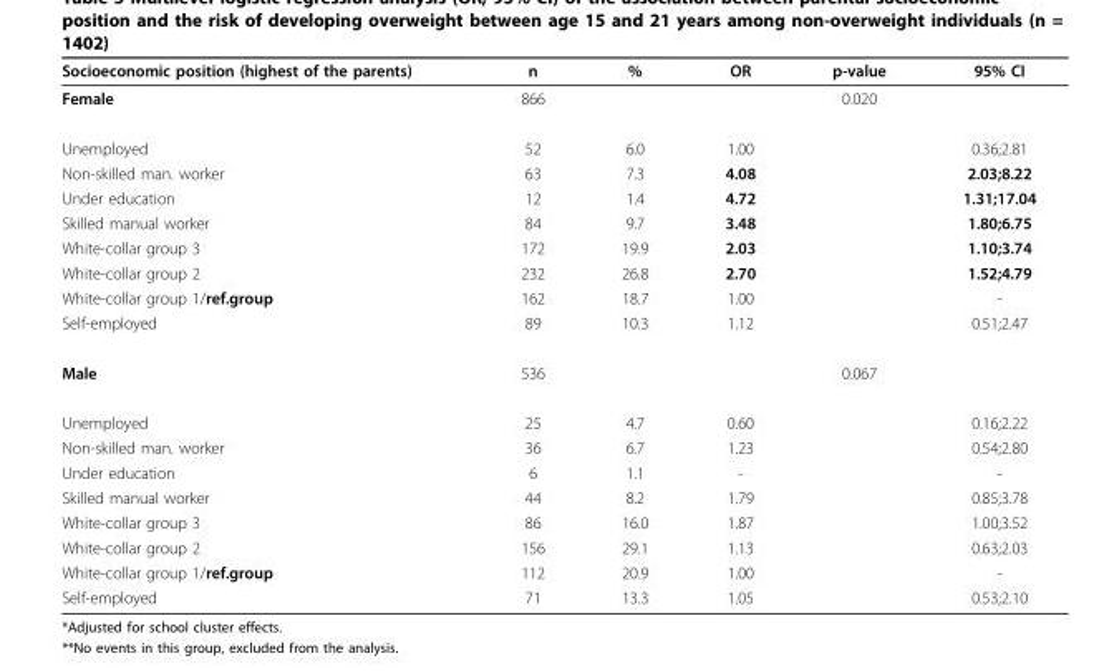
<table><thead><tr><td>Socioeconomic position (highest of the parents)</td><td>n</td><td>%</td><td>OR</td><td>p-value</td><td>95% CI</td></tr></thead><tbody><tr><td>Female</td><td>866</td><td></td><td></td><td>0.020</td><td></td></tr><tr><td>Unemployed</td><td>52</td><td>6.0</td><td>1.00</td><td></td><td>0.36;2.81</td></tr><tr><td>Non-skilled man. worker</td><td>63</td><td>7.3</td><td>4.08</td><td></td><td>2.03;8.22</td></tr><tr><td>Under education</td><td>12</td><td>1.4</td><td>4.72</td><td></td><td>1.31;17.04</td></tr><tr><td>Skilled manual worker</td><td>84</td><td>9.7</td><td>3.48</td><td></td><td>1.80;6.75</td></tr><tr><td>White-collar group 3</td><td>172</td><td>19.9</td><td>2.03</td><td></td><td>1.10;3.74</td></tr><tr><td>White-collar group 2</td><td>232</td><td>26.8</td><td>2.70</td><td></td><td>1.52;4.79</td></tr><tr><td>White-collar group 1/ref.group</td><td>162</td><td>18.7</td><td>1.00</td><td></td><td>-</td></tr><tr><td>Self-employed</td><td>89</td><td>10.3</td><td>1.12</td><td></td><td>0.51;2.47</td></tr><tr><td>Male</td><td>536</td><td></td><td></td><td>0.067</td><td></td></tr><tr><td>Unemployed</td><td>25</td><td>4.7</td><td>0.60</td><td></td><td>0.16;2.22</td></tr><tr><td>Non-skilled man. worker</td><td>36</td><td>6.7</td><td>1.23</td><td></td><td>0.54;2.80</td></tr><tr><td>Under education</td><td>6</td><td>1.1</td><td>-</td><td></td><td>-</td></tr><tr><td>Skilled manual worker</td><td>44</td><td>8.2</td><td>1.79</td><td></td><td>0.85;3.78</td></tr><tr><td>White-collar group 3</td><td>86</td><td>16.0</td><td>1.87</td><td></td><td>1.00;3.52</td></tr><tr><td>White-collar group 2</td><td>156</td><td>29.1</td><td>1.13</td><td></td><td>0.63;2.03</td></tr><tr><td>White-collar group 1/ref.group</td><td>112</td><td>20.9</td><td>1.00</td><td></td><td>-</td></tr><tr><td>Self-employed</td><td>71</td><td>13.3</td><td>1.05</td><td></td><td>0.53;2.10</td></tr></tbody></table>